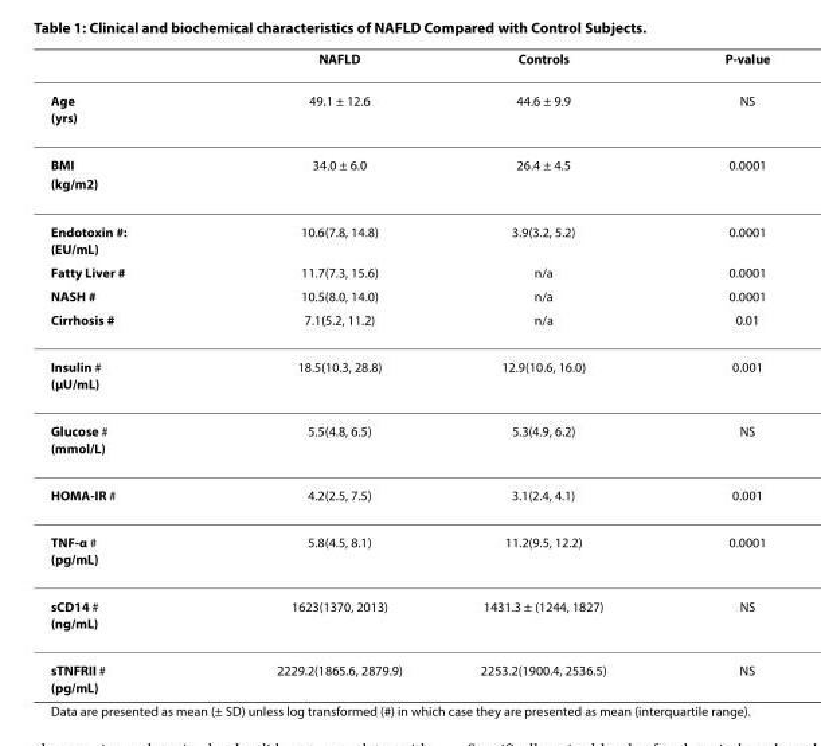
<table><thead><tr><td></td><td>NAFLD</td><td>Controls</td><td>P-value</td></tr></thead><tbody><tr><td>Age (yrs)</td><td>49.1 ± 12.6</td><td>44.6 ± 9.9</td><td>NS</td></tr><tr><td>BMI (kg/m<sup>2</sup>)</td><td>34.0 ± 6.0</td><td>26.4 ± 4.5</td><td>0.0001</td></tr><tr><td>Endotoxin #: (EU/mL)</td><td>10.6(7.8, 14.8)</td><td>3.9(3.2, 5.2)</td><td>0.0001</td></tr><tr><td>Fatty Liver #</td><td>11.7(7.3, 15.6)</td><td>n/a</td><td>0.0001</td></tr><tr><td>NASH #</td><td>10.5(8.0, 14.0)</td><td>n/a</td><td>0.0001</td></tr><tr><td>Cirrhosis #</td><td>7.1(5.2, 11.2)</td><td>n/a</td><td>0.01</td></tr><tr><td>Insulin # (μU/mL)</td><td>18.5(10.3, 28.8)</td><td>12.9(10.6, 16.0)</td><td>0.001</td></tr><tr><td>Glucose # (mmol/L)</td><td>5.5(4.8, 6.5)</td><td>5.3(4.9, 6.2)</td><td>NS</td></tr><tr><td>HOMA-IR #</td><td>4.2(2.5, 7.5)</td><td>3.1(2.4, 4.1)</td><td>0.001</td></tr><tr><td>TNF-α # (pg/mL)</td><td>5.8(4.5, 8.1)</td><td>11.2(9.5, 12.2)</td><td>0.0001</td></tr><tr><td>sCD14 # (ng/mL)</td><td>1623(1370, 2013)</td><td>1431.3 ± (1244, 1827)</td><td>NS</td></tr><tr><td>sTNFRII # (pg/mL)</td><td>2229.2(1865.6, 2879.9)</td><td>2253.2(1900.4, 2536.5)</td><td>NS</td></tr></tbody></table>